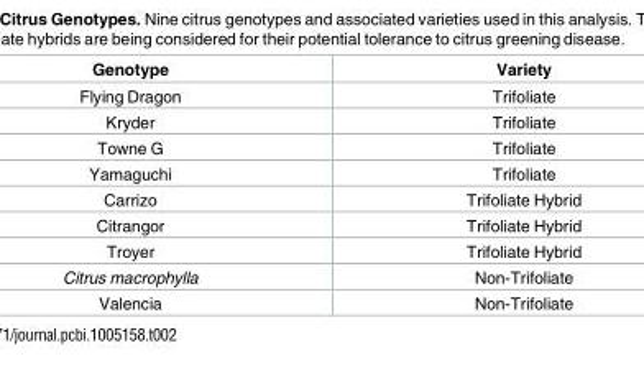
<table><thead><tr><td>Genotype</td><td>Variety</td></tr></thead><tbody><tr><td>Flying Dragon</td><td>Trifoliate</td></tr><tr><td>Kryder</td><td>Trifoliate</td></tr><tr><td>Towne G</td><td>Trifoliate</td></tr><tr><td>Yamaguchi</td><td>Trifoliate</td></tr><tr><td>Carrizo</td><td>Trifoliate Hybrid</td></tr><tr><td>Citrangor</td><td>Trifoliate Hybrid</td></tr><tr><td>Troyer</td><td>Trifoliate Hybrid</td></tr><tr><td>Citrus macrophylla</td><td>Non-Trifoliate</td></tr><tr><td>Valencia</td><td>Non-Trifoliate</td></tr></tbody></table>